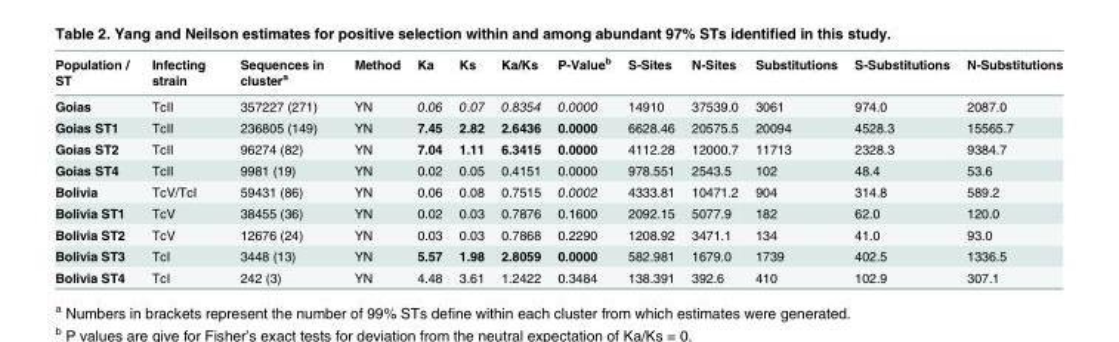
<table><thead><tr><td>Population / ST</td><td>Infecting strain</td><td>Sequences in cluster<sup>a</sup></td><td>Method</td><td>Ka</td><td>Ks</td><td>Ka/Ks</td><td>P-Value<sup>b</sup></td><td>S-Sites</td><td>N-Sites</td><td>Substitutions</td><td>S-Substitutions</td><td>N-Substitutions</td></tr></thead><tbody><tr><td>Goias</td><td>TcII</td><td>357227 (271)</td><td>YN</td><td>0.06</td><td>0.07</td><td>0.8354</td><td>0.0000</td><td>14910</td><td>37539.0</td><td>3061</td><td>974.0</td><td>2087.0</td></tr><tr><td>Goias ST1</td><td>TcII</td><td>236805 (149)</td><td>YN</td><td>7.45</td><td>2.82</td><td>2.6436</td><td>0.0000</td><td>6628.46</td><td>20575.5</td><td>20094</td><td>4528.3</td><td>15565.7</td></tr><tr><td>Goias ST2</td><td>TcII</td><td>96274 (82)</td><td>YN</td><td>7.04</td><td>1.11</td><td>6.3415</td><td>0.0000</td><td>4112.28</td><td>12000.7</td><td>11713</td><td>2328.3</td><td>9384.7</td></tr><tr><td>Goias ST4</td><td>TcII</td><td>9981 (19)</td><td>YN</td><td>0.02</td><td>0.05</td><td>0.4151</td><td>0.0000</td><td>978.551</td><td>2543.5</td><td>102</td><td>48.4</td><td>53.6</td></tr><tr><td>Bolivia</td><td>TcV/TcI</td><td>59431 (86)</td><td>YN</td><td>0.06</td><td>0.08</td><td>0.7515</td><td>0.0002</td><td>4333.81</td><td>10471.2</td><td>904</td><td>314.8</td><td>589.2</td></tr><tr><td>Bolivia ST1</td><td>TcV</td><td>38455 (36)</td><td>YN</td><td>0.02</td><td>0.03</td><td>0.7876</td><td>0.1600</td><td>2092.15</td><td>5077.9</td><td>182</td><td>62.0</td><td>120.0</td></tr><tr><td>Bolivia ST2</td><td>TcV</td><td>12676 (24)</td><td>YN</td><td>0.03</td><td>0.03</td><td>0.7868</td><td>0.2290</td><td>1208.92</td><td>3471.1</td><td>134</td><td>41.0</td><td>93.0</td></tr><tr><td>Bolivia ST3</td><td>TcI</td><td>3448 (13)</td><td>YN</td><td>5.57</td><td>1.98</td><td>2.8059</td><td>0.0000</td><td>582.981</td><td>1679.0</td><td>1739</td><td>402.5</td><td>1336.5</td></tr><tr><td>Bolivia ST4</td><td>TcI</td><td>242 (3)</td><td>YN</td><td>4.48</td><td>3.61</td><td>1.2422</td><td>0.3484</td><td>138.391</td><td>392.6</td><td>410</td><td>102.9</td><td>307.1</td></tr></tbody></table>